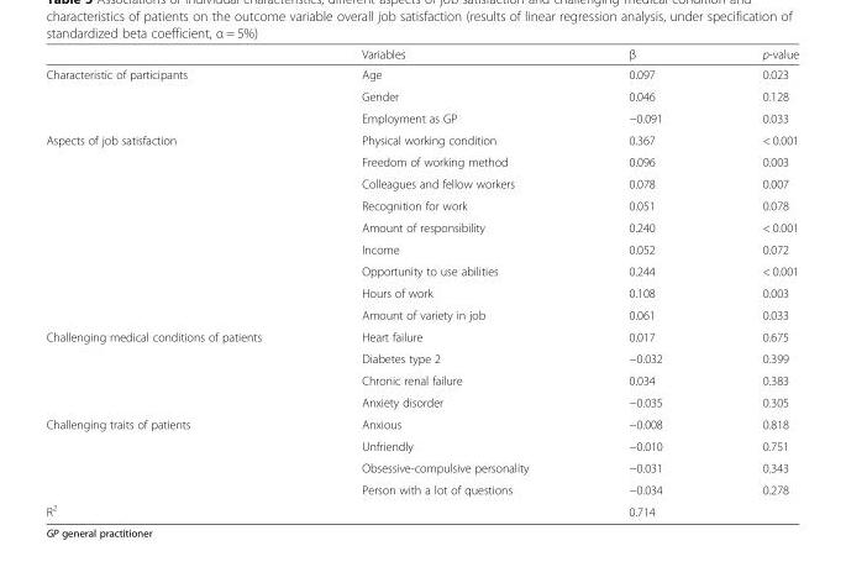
<table><thead><tr><td></td><td>Variables</td><td>β</td><td>p-value</td></tr></thead><tbody><tr><td rowspan="3">Characteristic of participants</td><td>Age</td><td>0.097</td><td>0.023</td></tr><tr><td>Gender</td><td>0.046</td><td>0.128</td></tr><tr><td>Employment as GP</td><td>−0.091</td><td>0.033</td></tr><tr><td rowspan="9">Aspects of job satisfaction</td><td>Physical working condition</td><td>0.367</td><td>&lt; 0.001</td></tr><tr><td>Freedom of working method</td><td>0.096</td><td>0.003</td></tr><tr><td>Colleagues and fellow workers</td><td>0.078</td><td>0.007</td></tr><tr><td>Recognition for work</td><td>0.051</td><td>0.078</td></tr><tr><td>Amount of responsibility</td><td>0.240</td><td>&lt; 0.001</td></tr><tr><td>Income</td><td>0.052</td><td>0.072</td></tr><tr><td>Opportunity to use abilities</td><td>0.244</td><td>&lt; 0.001</td></tr><tr><td>Hours of work</td><td>0.108</td><td>0.003</td></tr><tr><td>Amount of variety in job</td><td>0.061</td><td>0.033</td></tr><tr><td rowspan="4">Challenging medical conditions of patients</td><td>Heart failure</td><td>0.017</td><td>0.675</td></tr><tr><td>Diabetes type 2</td><td>−0.032</td><td>0.399</td></tr><tr><td>Chronic renal failure</td><td>0.034</td><td>0.383</td></tr><tr><td>Anxiety disorder</td><td>−0.035</td><td>0.305</td></tr><tr><td rowspan="4">Challenging traits of patients</td><td>Anxious</td><td>−0.008</td><td>0.818</td></tr><tr><td>Unfriendly</td><td>−0.010</td><td>0.751</td></tr><tr><td>Obsessive-compulsive personality</td><td>−0.031</td><td>0.343</td></tr><tr><td>Person with a lot of questions</td><td>−0.034</td><td>0.278</td></tr><tr><td>R<sup>2</sup></td><td></td><td>0.714</td><td></td></tr></tbody></table>